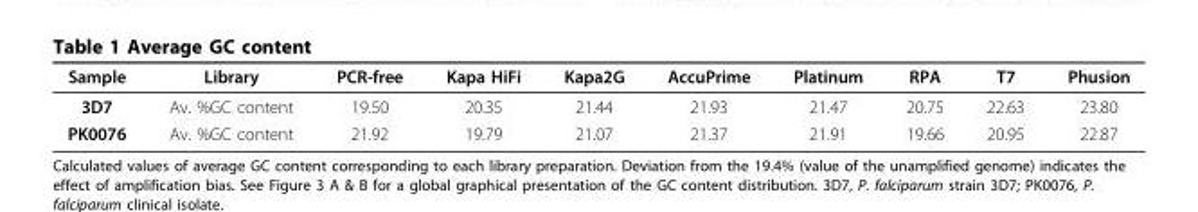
<table><thead><tr><td>Sample</td><td>Library</td><td>PCR-free</td><td>Kapa HiFi</td><td>Kapa2G</td><td>AccuPrime</td><td>Platinum</td><td>RPA</td><td>T7</td><td>Phusion</td></tr></thead><tbody><tr><td>3D7</td><td>Av. %GC content</td><td>19.50</td><td>20.35</td><td>21.44</td><td>21.93</td><td>21.47</td><td>20.75</td><td>22.63</td><td>23.80</td></tr><tr><td>PK0076</td><td>Av. %GC content</td><td>21.92</td><td>19.79</td><td>21.07</td><td>21.37</td><td>21.91</td><td>19.66</td><td>20.95</td><td>22.87</td></tr></tbody></table>